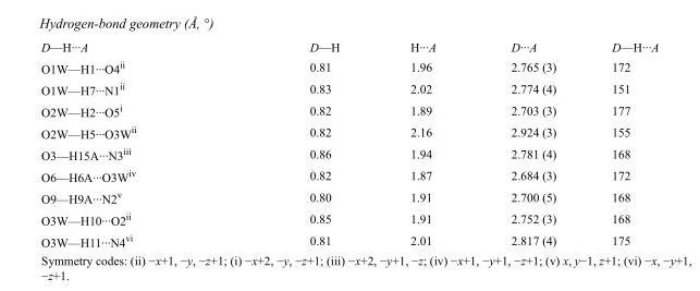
<table><tbody><tr><td>D—H···A</td><td>D—H</td><td>H···A</td><td>D···A</td><td>D—H···A</td></tr><tr><td>O1W—H1···O4<sup>ii</sup></td><td>0.81</td><td>1.96</td><td>2.765 (3)</td><td>172</td></tr><tr><td>O1W—H7···N1<sup>ii</sup></td><td>0.83</td><td>2.02</td><td>2.774 (4)</td><td>151</td></tr><tr><td>O2W—H2···O5<sup>i</sup></td><td>0.82</td><td>1.89</td><td>2.703 (3)</td><td>177</td></tr><tr><td>O2W—H5···O3W<sup>ii</sup></td><td>0.82</td><td>2.16</td><td>2.924 (3)</td><td>155</td></tr><tr><td>O3—H15A···N3<sup>iii</sup></td><td>0.86</td><td>1.94</td><td>2.781 (4)</td><td>168</td></tr><tr><td>O6—H6A···O3W<sup>iv</sup></td><td>0.82</td><td>1.87</td><td>2.684 (3)</td><td>172</td></tr><tr><td>O9—H9A···N2<sup>v</sup></td><td>0.80</td><td>1.91</td><td>2.700 (5)</td><td>168</td></tr><tr><td>O3W—H10···O2<sup>ii</sup></td><td>0.85</td><td>1.91</td><td>2.752 (3)</td><td>168</td></tr><tr><td>O3W—H11···N4<sup>vi</sup></td><td>0.81</td><td>2.01</td><td>2.817 (4)</td><td>175</td></tr></tbody></table>